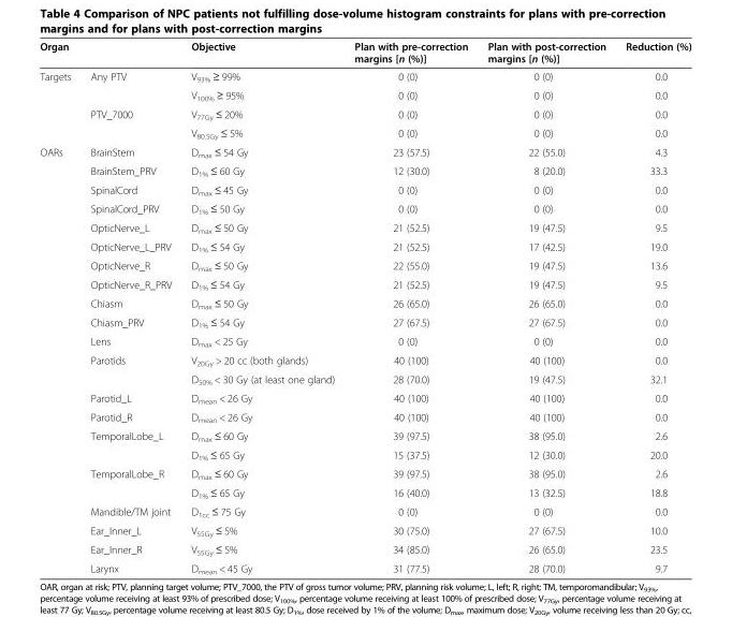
<table><thead><tr><td colspan="2">Organ</td><td rowspan="2">Objective V<sub>93%</sub> ≥ 99%</td><td rowspan="2">Plan with pre-correction margins [n (%)] 0 (0)</td><td rowspan="2">Plan with post-correction margins [n (%)] 0 (0)</td><td rowspan="2">Reduction (%) 0.0</td></tr><tr><td>Targets</td><td>Any PTV</td></tr></thead><tbody><tr><td></td><td></td><td>V<sub>100%</sub> ≥ 95%</td><td>0 (0)</td><td>0 (0)</td><td>0.0</td></tr><tr><td></td><td>PTV_7000</td><td>V<sub>77Gy</sub> ≤ 20%</td><td>0 (0)</td><td>0 (0)</td><td>0.0</td></tr><tr><td></td><td></td><td>V<sub>80.5Gy</sub> ≤ 5%</td><td>0 (0)</td><td>0 (0)</td><td>0.0</td></tr><tr><td rowspan="23">OARs</td><td>BrainStem</td><td>D<sub>max</sub> ≤ 54 Gy</td><td>23 (57.5)</td><td>22 (55.0)</td><td>4.3</td></tr><tr><td>BrainStem_PRV</td><td>D<sub>1%</sub> ≤ 60 Gy</td><td>12 (30.0)</td><td>8 (20.0)</td><td>33.3</td></tr><tr><td>SpinalCord</td><td>D<sub>max</sub> ≤ 45 Gy</td><td>0 (0)</td><td>0 (0)</td><td>0.0</td></tr><tr><td>SpinalCord_PRV</td><td>D<sub>1%</sub> ≤ 50 Gy</td><td>0 (0)</td><td>0 (0)</td><td>0.0</td></tr><tr><td>OpticNerve_L</td><td>D<sub>max</sub> ≤ 50 Gy</td><td>21 (52.5)</td><td>19 (47.5)</td><td>9.5</td></tr><tr><td>OpticNerve_L_PRV</td><td>D<sub>1%</sub> ≤ 54 Gy</td><td>21 (52.5)</td><td>17 (42.5)</td><td>19.0</td></tr><tr><td>OpticNerve_R</td><td>D<sub>max</sub> ≤ 50 Gy</td><td>22 (55.0)</td><td>19 (47.5)</td><td>13.6</td></tr><tr><td>OpticNerve_R_PRV</td><td>D<sub>1%</sub> ≤ 54 Gy</td><td>21 (52.5)</td><td>19 (47.5)</td><td>9.5</td></tr><tr><td>Chiasm</td><td>D<sub>max</sub> ≤ 50 Gy</td><td>26 (65.0)</td><td>26 (65.0)</td><td>0.0</td></tr><tr><td>Chiasm_PRV</td><td>D<sub>1%</sub> ≤ 54 Gy</td><td>27 (67.5)</td><td>27 (67.5)</td><td>0.0</td></tr><tr><td>Lens</td><td>D<sub>max</sub> &lt; 25 Gy</td><td>0 (0)</td><td>0 (0)</td><td>0.0</td></tr><tr><td>Parotids</td><td>V<sub>20Gy</sub> &gt; 20 cc (both glands)</td><td>40 (100)</td><td>40 (100)</td><td>0.0</td></tr><tr><td></td><td>D<sub>50%</sub> &lt; 30 Gy (at least one gland)</td><td>28 (70.0)</td><td>19 (47.5)</td><td>32.1</td></tr><tr><td>Parotid_L</td><td>D<sub>mean</sub> &lt; 26 Gy</td><td>40 (100)</td><td>40 (100)</td><td>0.0</td></tr><tr><td>Parotid_R</td><td>D<sub>mean</sub> &lt; 26 Gy</td><td>40 (100)</td><td>40 (100)</td><td>0.0</td></tr><tr><td>TemporalLobe_L</td><td>D<sub>max</sub> ≤ 60 Gy</td><td>39 (97.5)</td><td>38 (95.0)</td><td>2.6</td></tr><tr><td></td><td>D<sub>1%</sub> ≤ 65 Gy</td><td>15 (37.5)</td><td>12 (30.0)</td><td>20.0</td></tr><tr><td>TemporalLobe_R</td><td>D<sub>max</sub> ≤ 60 Gy</td><td>39 (97.5)</td><td>38 (95.0)</td><td>2.6</td></tr><tr><td></td><td>D<sub>1%</sub> ≤ 65 Gy</td><td>16 (40.0)</td><td>13 (32.5)</td><td>18.8</td></tr><tr><td>Mandible/TM joint</td><td>D<sub>1cc</sub> ≤ 75 Gy</td><td>0 (0)</td><td>0 (0)</td><td>0.0</td></tr><tr><td>Ear_Inner_L</td><td>V<sub>55Gy</sub> ≤ 5%</td><td>30 (75.0)</td><td>27 (67.5)</td><td>10.0</td></tr><tr><td>Ear_Inner_R</td><td>V<sub>55Gy</sub> ≤ 5%</td><td>34 (85.0)</td><td>26 (65.0)</td><td>23.5</td></tr><tr><td>Larynx</td><td>D<sub>mean</sub> &lt; 45 Gy</td><td>31 (77.5)</td><td>28 (70.0)</td><td>9.7</td></tr></tbody></table>